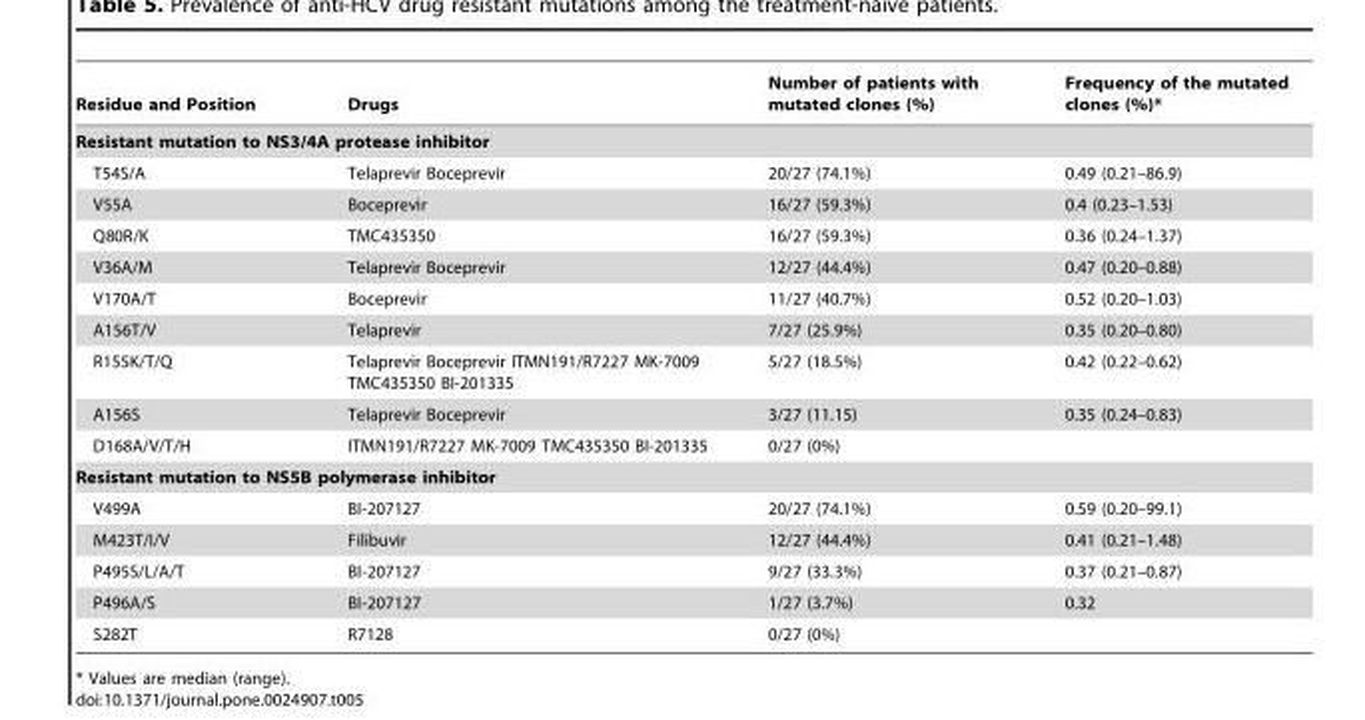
<table><thead><tr><td>Residue and Position</td><td>Drugs</td><td>Number of patients with mutated clones (%)</td><td>Frequency of the mutated clones (%)*</td></tr></thead><tbody><tr><td colspan="4">Resistant mutation to NS3/4A protease inhibitor</td></tr><tr><td>T54S/A</td><td>Telaprevir Boceprevir</td><td>20/27 (74.1%)</td><td>0.49 (0.21–86.9)</td></tr><tr><td>V55A</td><td>Boceprevir</td><td>16/27 (59.3%)</td><td>0.4 (0.23–1.53)</td></tr><tr><td>Q80R/K</td><td>TMC435350</td><td>16/27 (59.3%)</td><td>0.36 (0.24–1.37)</td></tr><tr><td>V36A/M</td><td>Telaprevir Boceprevir</td><td>12/27 (44.4%)</td><td>0.47 (0.20–0.88)</td></tr><tr><td>V170A/T</td><td>Boceprevir</td><td>11/27 (40.7%)</td><td>0.52 (0.20–1.03)</td></tr><tr><td>A156T/V</td><td>Telaprevir</td><td>7/27 (25.9%)</td><td>0.35 (0.20–0.80)</td></tr><tr><td>R155K/T/Q</td><td>Telaprevir Boceprevir ITMN191/R7227 MK-7009 TMC435350 BI-201335</td><td>5/27 (18.5%)</td><td>0.42 (0.22–0.62)</td></tr><tr><td>A156S</td><td>Telaprevir Boceprevir</td><td>3/27 (11.15)</td><td>0.35 (0.24–0.83)</td></tr><tr><td>D168A/V/T/H</td><td>ITMN191/R7227 MK-7009 TMC435350 BI-201335</td><td>0/27 (0%)</td><td></td></tr><tr><td colspan="4">Resistant mutation to NS5B polymerase inhibitor</td></tr><tr><td>V499A</td><td>BI-207127</td><td>20/27 (74.1%)</td><td>0.59 (0.20–99.1)</td></tr><tr><td>M423T/I/V</td><td>Filibuvir</td><td>12/27 (44.4%)</td><td>0.41 (0.21–1.48)</td></tr><tr><td>P495S/L/A/T</td><td>BI-207127</td><td>9/27 (33.3%)</td><td>0.37 (0.21–0.87)</td></tr><tr><td>P496A/S</td><td>BI-207127</td><td>1/27 (3.7%)</td><td>0.32</td></tr><tr><td>S282T</td><td>R7128</td><td>0/27 (0%)</td><td></td></tr></tbody></table>